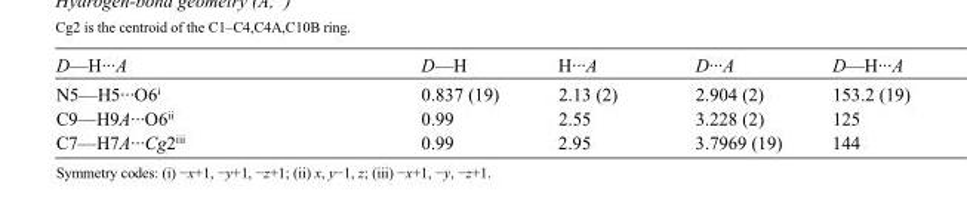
<table><tbody><tr><td>D—H···A</td><td>D—H</td><td>H···A</td><td>D···A</td><td>D—H···A</td></tr><tr><td>N5—H5···O6<sup>i</sup></td><td>0.837 (19)</td><td>2.13 (2)</td><td>2.904 (2)</td><td>153.2 (19)</td></tr><tr><td>C9—H9A···O6<sup>ii</sup></td><td>0.99</td><td>2.55</td><td>3.228 (2)</td><td>125</td></tr><tr><td>C7—H7A···Cg2<sup>iii</sup></td><td>0.99</td><td>2.95</td><td>3.7969 (19)</td><td>144</td></tr></tbody></table>